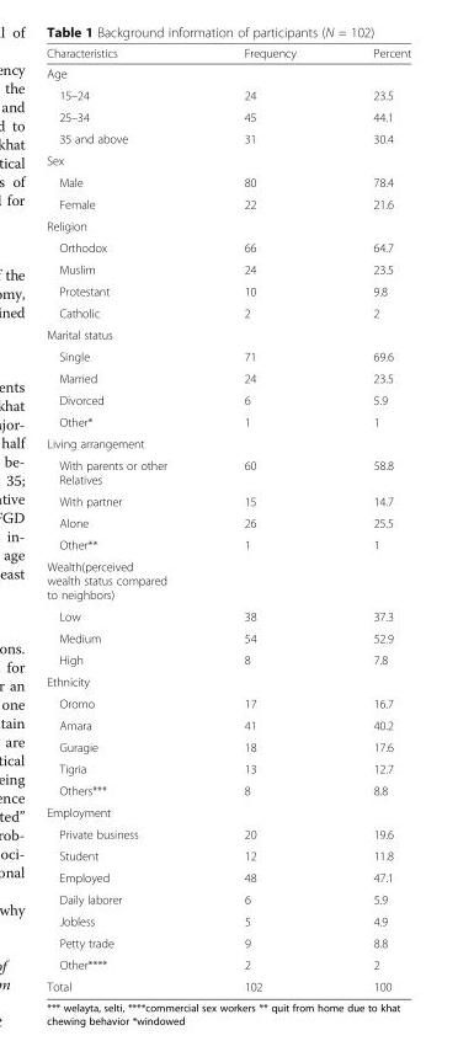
<table><thead><tr><td>Characteristics</td><td>Frequency</td><td>Percent</td></tr></thead><tbody><tr><td colspan="3">Age</td></tr><tr><td>15–24</td><td>24</td><td>23.5</td></tr><tr><td>25–34</td><td>45</td><td>44.1</td></tr><tr><td>35 and above</td><td>31</td><td>30.4</td></tr><tr><td colspan="3">Sex</td></tr><tr><td>Male</td><td>80</td><td>78.4</td></tr><tr><td>Female</td><td>22</td><td>21.6</td></tr><tr><td colspan="3">Religion</td></tr><tr><td>Orthodox</td><td>66</td><td>64.7</td></tr><tr><td>Muslim</td><td>24</td><td>23.5</td></tr><tr><td>Protestant</td><td>10</td><td>9.8</td></tr><tr><td>Catholic</td><td>2</td><td>2</td></tr><tr><td colspan="3">Marital status</td></tr><tr><td>Single</td><td>71</td><td>69.6</td></tr><tr><td>Married</td><td>24</td><td>23.5</td></tr><tr><td>Divorced</td><td>6</td><td>5.9</td></tr><tr><td>Other*</td><td>1</td><td>1</td></tr><tr><td colspan="3">Living arrangement</td></tr><tr><td>With parents or other Relatives</td><td>60</td><td>58.8</td></tr><tr><td>With partner</td><td>15</td><td>14.7</td></tr><tr><td>Alone</td><td>26</td><td>25.5</td></tr><tr><td>Other**</td><td>1</td><td>1</td></tr><tr><td colspan="3">Wealth(perceived wealth status compared to neighbors)</td></tr><tr><td>Low</td><td>38</td><td>37.3</td></tr><tr><td>Medium</td><td>54</td><td>52.9</td></tr><tr><td>High</td><td>8</td><td>7.8</td></tr><tr><td colspan="3">Ethnicity</td></tr><tr><td>Oromo</td><td>17</td><td>16.7</td></tr><tr><td>Amara</td><td>41</td><td>40.2</td></tr><tr><td>Guragie</td><td>18</td><td>17.6</td></tr><tr><td>Tigria</td><td>13</td><td>12.7</td></tr><tr><td>Others***</td><td>8</td><td>8.8</td></tr><tr><td colspan="3">Employment</td></tr><tr><td>Private business</td><td>20</td><td>19.6</td></tr><tr><td>Student</td><td>12</td><td>11.8</td></tr><tr><td>Employed</td><td>48</td><td>47.1</td></tr><tr><td>Daily laborer</td><td>6</td><td>5.9</td></tr><tr><td>Jobless</td><td>5</td><td>4.9</td></tr><tr><td>Petty trade</td><td>9</td><td>8.8</td></tr><tr><td>Other****</td><td>2</td><td>2</td></tr><tr><td>Total</td><td>102</td><td>100</td></tr></tbody></table>